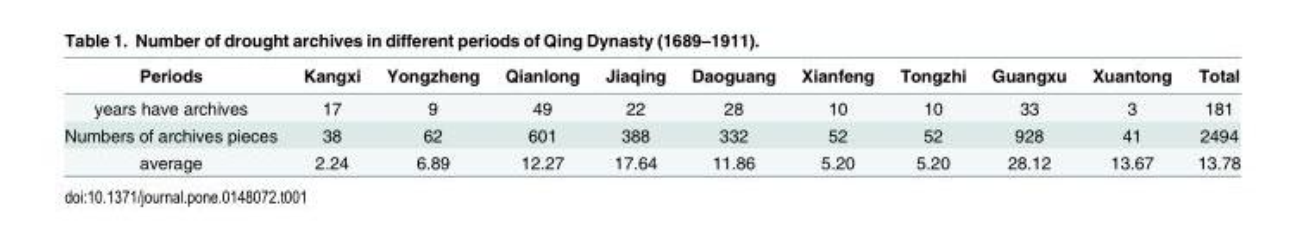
<table><thead><tr><td>Periods</td><td>Kangxi</td><td>Yongzheng</td><td>Qianlong</td><td>Jiaqing</td><td>Daoguang</td><td>Xianfeng</td><td>Tongzhi</td><td>Guangxu</td><td>Xuantong</td><td>Total</td></tr></thead><tbody><tr><td>years have archives</td><td>17</td><td>9</td><td>49</td><td>22</td><td>28</td><td>10</td><td>10</td><td>33</td><td>3</td><td>181</td></tr><tr><td>Numbers of archives pieces</td><td>38</td><td>62</td><td>601</td><td>388</td><td>332</td><td>52</td><td>52</td><td>928</td><td>41</td><td>2494</td></tr><tr><td>average</td><td>2.24</td><td>6.89</td><td>12.27</td><td>17.64</td><td>11.86</td><td>5.20</td><td>5.20</td><td>28.12</td><td>13.67</td><td>13.78</td></tr></tbody></table>